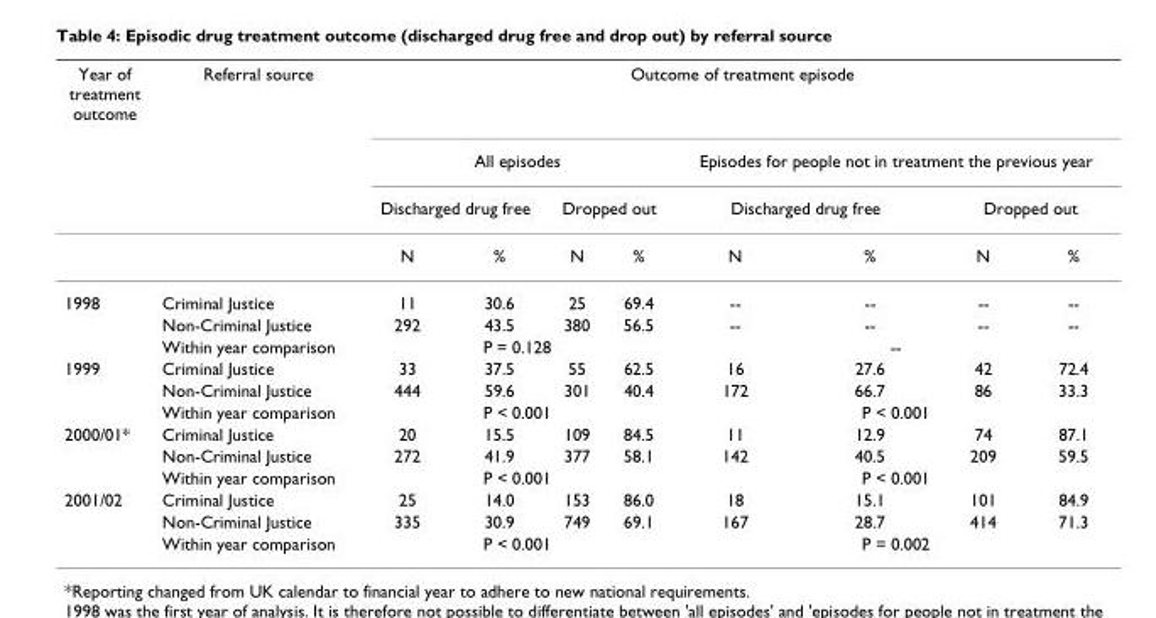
<table><thead><tr><td rowspan="4">Year of treatment outcome</td><td rowspan="4">Referral source</td><td colspan="8">Outcome of treatment episode</td></tr><tr><td colspan="4">All episodes</td><td colspan="4">Episodes for people not in treatment the previous year</td></tr><tr><td colspan="2">Discharged drug free</td><td colspan="2">Dropped out</td><td colspan="2">Discharged drug free</td><td colspan="2">Dropped out</td></tr><tr><td>N</td><td>%</td><td>N</td><td>%</td><td>N</td><td>%</td><td>N</td><td>%</td></tr></thead><tbody><tr><td rowspan="3">1998</td><td>Criminal Justice</td><td>11</td><td>30.6</td><td>25</td><td>69.4</td><td>--</td><td>--</td><td>--</td><td>--</td></tr><tr><td>Non-Criminal Justice</td><td>292</td><td>43.5</td><td>380</td><td>56.5</td><td>--</td><td>--</td><td>--</td><td>--</td></tr><tr><td>Within year comparison</td><td colspan="4">P = 0.128</td><td colspan="4">--</td></tr><tr><td rowspan="3">1999</td><td>Criminal Justice</td><td>33</td><td>37.5</td><td>55</td><td>62.5</td><td>16</td><td>27.6</td><td>42</td><td>72.4</td></tr><tr><td>Non-Criminal Justice</td><td>444</td><td>59.6</td><td>301</td><td>40.4</td><td>172</td><td>66.7</td><td>86</td><td>33.3</td></tr><tr><td>Within year comparison</td><td colspan="4">P &lt; 0.001</td><td colspan="4">P &lt; 0.001</td></tr><tr><td rowspan="3">2000/01*</td><td>Criminal Justice</td><td>20</td><td>15.5</td><td>109</td><td>84.5</td><td>11</td><td>12.9</td><td>74</td><td>87.1</td></tr><tr><td>Non-Criminal Justice</td><td>272</td><td>41.9</td><td>377</td><td>58.1</td><td>142</td><td>40.5</td><td>209</td><td>59.5</td></tr><tr><td>Within year comparison</td><td colspan="4">P &lt; 0.001</td><td colspan="4">P &lt; 0.001</td></tr><tr><td rowspan="3">2001/02</td><td>Criminal Justice</td><td>25</td><td>14.0</td><td>153</td><td>86.0</td><td>18</td><td>15.1</td><td>101</td><td>84.9</td></tr><tr><td>Non-Criminal Justice</td><td>335</td><td>30.9</td><td>749</td><td>69.1</td><td>167</td><td>28.7</td><td>414</td><td>71.3</td></tr><tr><td>Within year comparison</td><td colspan="4">P &lt; 0.001</td><td colspan="4">P = 0.002</td></tr></tbody></table>